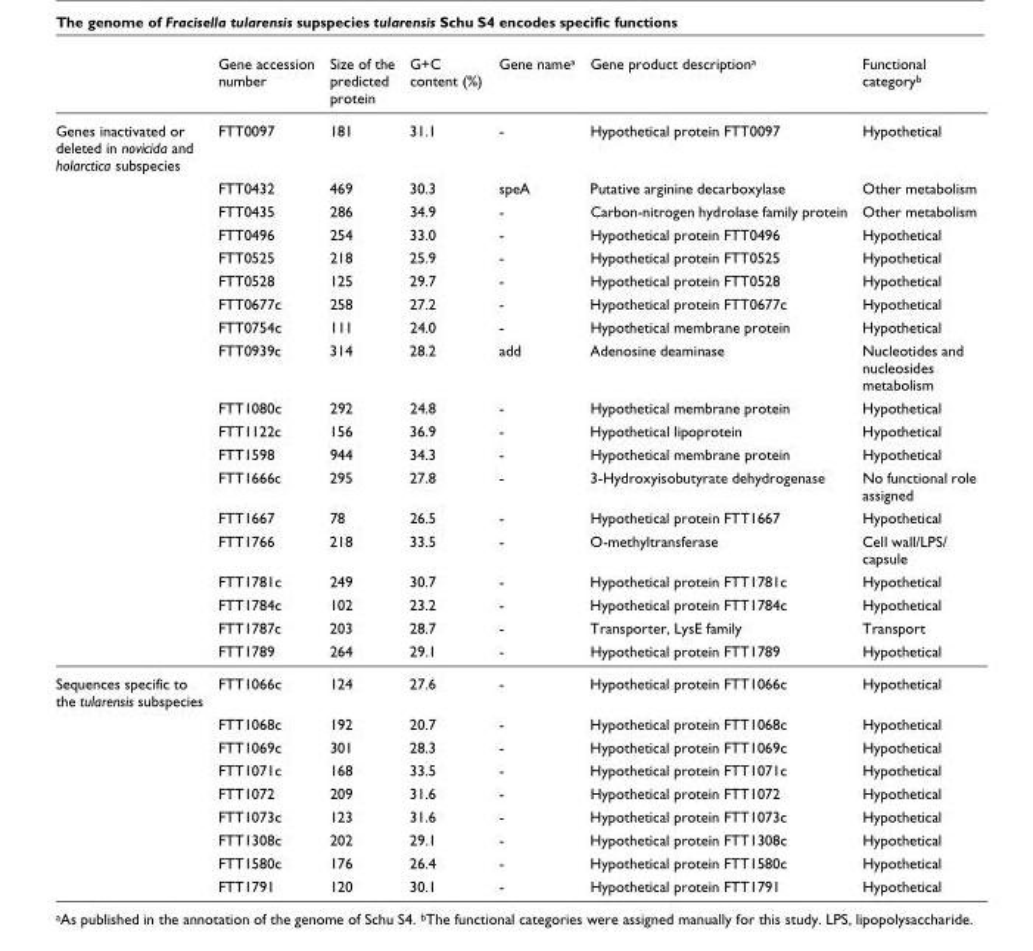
<table><thead><tr><td></td><td>Gene accession number</td><td>Size of the predicted protein</td><td>G+C content (%)</td><td>Gene name<sup>a</sup></td><td>Gene product description<sup>a</sup></td><td>Functional category<sup>b</sup></td></tr></thead><tbody><tr><td rowspan="19">Genes inactivated or deleted in novicida and holarctica subspecies</td><td>FTT0097</td><td>181</td><td>31.1</td><td>-</td><td>Hypothetical protein FTT0097</td><td>Hypothetical</td></tr><tr><td>FTT0432</td><td>469</td><td>30.3</td><td>speA</td><td>Putative arginine decarboxylase</td><td>Other metabolism</td></tr><tr><td>FTT0435</td><td>286</td><td>34.9</td><td>-</td><td>Carbon-nitrogen hydrolase family protein</td><td>Other metabolism</td></tr><tr><td>FTT0496</td><td>254</td><td>33.0</td><td>-</td><td>Hypothetical protein FTT0496</td><td>Hypothetical</td></tr><tr><td>FTT0525</td><td>218</td><td>25.9</td><td>-</td><td>Hypothetical protein FTT0525</td><td>Hypothetical</td></tr><tr><td>FTT0528</td><td>125</td><td>29.7</td><td>-</td><td>Hypothetical protein FTT0528</td><td>Hypothetical</td></tr><tr><td>FTT0677c</td><td>258</td><td>27.2</td><td>-</td><td>Hypothetical protein FTT0677c</td><td>Hypothetical</td></tr><tr><td>FTT0754c</td><td>111</td><td>24.0</td><td>-</td><td>Hypothetical membrane protein</td><td>Hypothetical</td></tr><tr><td>FTT0939c</td><td>314</td><td>28.2</td><td>add</td><td>Adenosine deaminase</td><td>Nucleotides and nucleosides metabolism</td></tr><tr><td>FTT1080c</td><td>292</td><td>24.8</td><td>-</td><td>Hypothetical membrane protein</td><td>Hypothetical</td></tr><tr><td>FTT1122c</td><td>156</td><td>36.9</td><td>-</td><td>Hypothetical lipoprotein</td><td>Hypothetical</td></tr><tr><td>FTT1598</td><td>944</td><td>34.3</td><td>-</td><td>Hypothetical membrane protein</td><td>Hypothetical</td></tr><tr><td>FTT1666c</td><td>295</td><td>27.8</td><td>-</td><td>3-Hydroxyisobutyrate dehydrogenase</td><td>No functional role assigned</td></tr><tr><td>FTT1667</td><td>78</td><td>26.5</td><td>-</td><td>Hypothetical protein FTT1667</td><td>Hypothetical</td></tr><tr><td>FTT1766</td><td>218</td><td>33.5</td><td>-</td><td>O-methyltransferase</td><td>Cell wall/LPS/ capsule</td></tr><tr><td>FTT1781c</td><td>249</td><td>30.7</td><td>-</td><td>Hypothetical protein FTT1781c</td><td>Hypothetical</td></tr><tr><td>FTT1784c</td><td>102</td><td>23.2</td><td>-</td><td>Hypothetical protein FTT1784c</td><td>Hypothetical</td></tr><tr><td>FTT1787c</td><td>203</td><td>28.7</td><td>-</td><td>Transporter, LysE family</td><td>Transport</td></tr><tr><td>FTT1789</td><td>264</td><td>29.1</td><td>-</td><td>Hypothetical protein FTT1789</td><td>Hypothetical</td></tr><tr><td rowspan="9">Sequences specific to the tularensis subspecies</td><td>FTT1066c</td><td>124</td><td>27.6</td><td>-</td><td>Hypothetical protein FTT1066c</td><td>Hypothetical</td></tr><tr><td>FTT1068c</td><td>192</td><td>20.7</td><td>-</td><td>Hypothetical protein FTT1068c</td><td>Hypothetical</td></tr><tr><td>FTT1069c</td><td>301</td><td>28.3</td><td>-</td><td>Hypothetical protein FTT1069c</td><td>Hypothetical</td></tr><tr><td>FTT1071c</td><td>168</td><td>33.5</td><td>-</td><td>Hypothetical protein FTT1071c</td><td>Hypothetical</td></tr><tr><td>FTT1072</td><td>209</td><td>31.6</td><td>-</td><td>Hypothetical protein FTT1072</td><td>Hypothetical</td></tr><tr><td>FTT1073c</td><td>123</td><td>31.6</td><td>-</td><td>Hypothetical protein FTT1073c</td><td>Hypothetical</td></tr><tr><td>FTT1308c</td><td>202</td><td>29.1</td><td>-</td><td>Hypothetical protein FTT1308c</td><td>Hypothetical</td></tr><tr><td>FTT1580c</td><td>176</td><td>26.4</td><td>-</td><td>Hypothetical protein FTT1580c</td><td>Hypothetical</td></tr><tr><td>FTT1791</td><td>120</td><td>30.1</td><td>-</td><td>Hypothetical protein FTT1791</td><td>Hypothetical</td></tr></tbody></table>